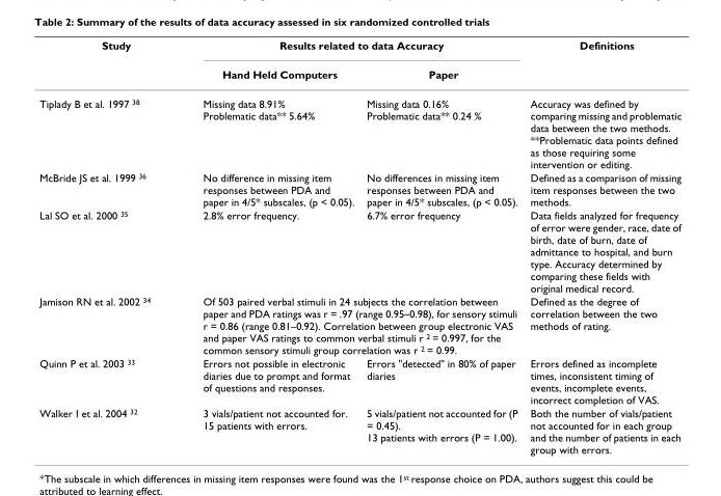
<table><thead><tr><td rowspan="2">Study</td><td colspan="2">Results related to data Accuracy</td><td rowspan="2">Definitions</td></tr><tr><td>Hand Held Computers</td><td>Paper</td></tr></thead><tbody><tr><td>Tiplady B et al. 1997 <sup>38</sup></td><td>Missing data 8.91% Problematic data** 5.64%</td><td>Missing data 0.16% Problematic data** 0.24 %</td><td>Accuracy was defined by comparing missing and problematic data between the two methods. **Problematic data points defined as those requiring some intervention or editing.</td></tr><tr><td>McBride JS et al. 1999 <sup>36</sup></td><td>No difference in missing item responses between PDA and paper in 4/5* subscales, (p &lt; 0.05).</td><td>No differences in missing item responses between PDA and paper in 4/5* subscales, (p &lt; 0.05).</td><td>Defined as a comparison of missing item responses between the two methods.</td></tr><tr><td>Lal SO et al. 2000 <sup>35</sup></td><td>2.8% error frequency.</td><td>6.7% error frequency</td><td>Data fields analyzed for frequency of error were gender, race, date of birth, date of burn, date of admittance to hospital, and burn type. Accuracy determined by comparing these fields with original medical record.</td></tr><tr><td>Jamison RN et al. 2002 <sup>34</sup></td><td colspan="2">Of 503 paired verbal stimuli in 24 subjects the correlation between paper and PDA ratings was r = .97 (range 0.95–0.98), for sensory stimuli r = 0.86 (range 0.81–0.92). Correlation between group electronic VAS and paper VAS ratings to common verbal stimuli r <sup>2</sup> = 0.997, for the common sensory stimuli group correlation was r <sup>2</sup> = 0.99.</td><td>Defined as the degree of correlation between the two methods of rating.</td></tr><tr><td>Quinn P et al. 2003 <sup>33</sup></td><td>Errors not possible in electronic diaries due to prompt and format of questions and responses.</td><td>Errors &quot;detected&quot; in 80% of paper diaries</td><td>Errors defined as incomplete times, inconsistent timing of events, incomplete events, incorrect completion of VAS.</td></tr><tr><td>Walker I et al. 2004 <sup>32</sup></td><td>3 vials/patient not accounted for. 15 patients with errors.</td><td>5 vials/patient not accounted for (P = 0.45). 13 patients with errors (P = 1.00).</td><td>Both the number of vials/patient not accounted for in each group and the number of patients in each group with errors.</td></tr></tbody></table>